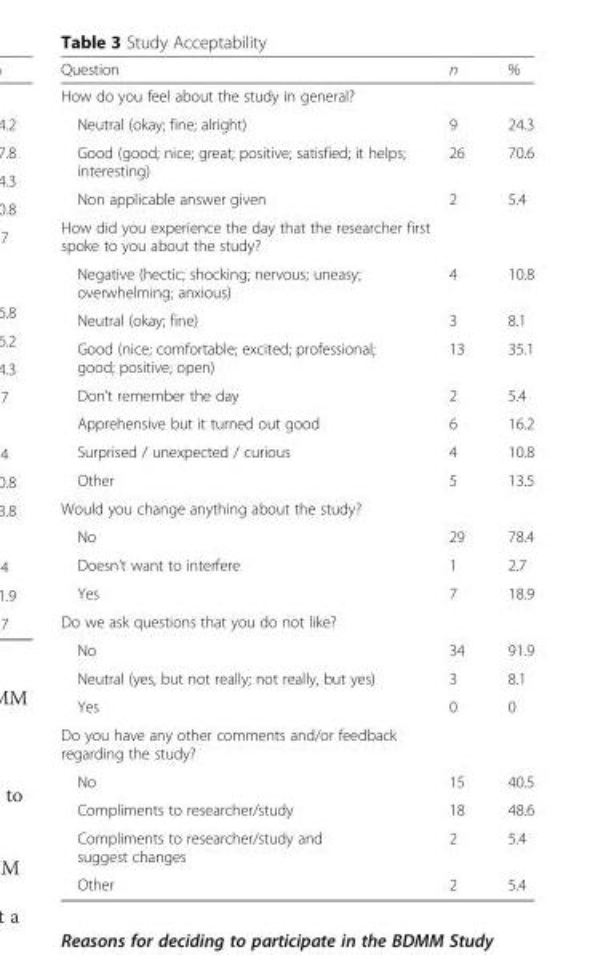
<table><thead><tr><td>Question</td><td>n</td><td>%</td></tr></thead><tbody><tr><td colspan="3">How do you feel about the study in general?</td></tr><tr><td>Neutral (okay; fine; alright)</td><td>9</td><td>24.3</td></tr><tr><td>Good (good; nice; great; positive; satisfied; it helps; interesting)</td><td>26</td><td>70.6</td></tr><tr><td>Non applicable answer given</td><td>2</td><td>5.4</td></tr><tr><td colspan="3">How did you experience the day that the researcher first spoke to you about the study?</td></tr><tr><td>Negative (hectic; shocking; nervous; uneasy; overwhelming; anxious)</td><td>4</td><td>10.8</td></tr><tr><td>Neutral (okay; fine)</td><td>3</td><td>8.1</td></tr><tr><td>Good (nice; comfortable; excited; professional; good; positive; open)</td><td>13</td><td>35.1</td></tr><tr><td>Don’t remember the day</td><td>2</td><td>5.4</td></tr><tr><td>Apprehensive but it turned out good</td><td>6</td><td>16.2</td></tr><tr><td>Surprised / unexpected / curious</td><td>4</td><td>10.8</td></tr><tr><td>Other</td><td>5</td><td>13.5</td></tr><tr><td colspan="3">Would you change anything about the study?</td></tr><tr><td>No</td><td>29</td><td>78.4</td></tr><tr><td>Doesn’t want to interfere</td><td>1</td><td>2.7</td></tr><tr><td>Yes</td><td>7</td><td>18.9</td></tr><tr><td colspan="3">Do we ask questions that you do not like?</td></tr><tr><td>No</td><td>34</td><td>91.9</td></tr><tr><td>Neutral (yes, but not really; not really, but yes)</td><td>3</td><td>8.1</td></tr><tr><td>Yes</td><td>0</td><td>0</td></tr><tr><td colspan="3">Do you have any other comments and/or feedback regarding the study?</td></tr><tr><td>No</td><td>15</td><td>40.5</td></tr><tr><td>Compliments to researcher/study</td><td>18</td><td>48.6</td></tr><tr><td>Compliments to researcher/study and suggest changes</td><td>2</td><td>5.4</td></tr><tr><td>Other</td><td>2</td><td>5.4</td></tr></tbody></table>